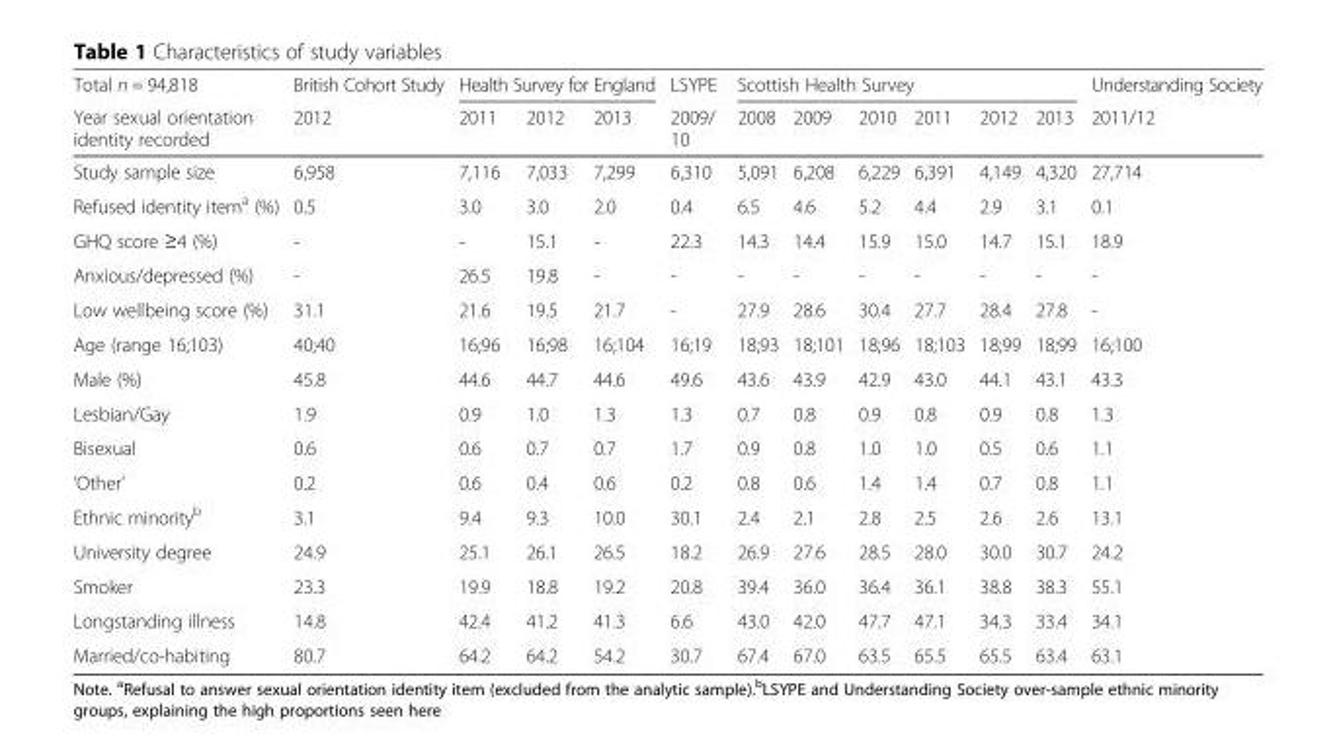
<table><thead><tr><td rowspan="2">Total n = 94,818 Year sexual orientation identity recorded</td><td rowspan="2">British Cohort Study 2012</td><td colspan="3">Health Survey for England</td><td rowspan="2">LSYPE 2009/ 10</td><td colspan="6">Scottish Health Survey</td><td rowspan="2">Understanding Society 2011/12</td></tr><tr><td>2011</td><td>2012</td><td>2013</td><td>2008</td><td>2009</td><td>2010</td><td>2011</td><td>2012</td><td>2013</td></tr></thead><tbody><tr><td>Study sample size</td><td>6,958</td><td>7,116</td><td>7,033</td><td>7,299</td><td>6,310</td><td>5,091</td><td>6,208</td><td>6,229</td><td>6,391</td><td>4,149</td><td>4,320</td><td>27,714</td></tr><tr><td>Refused identity item<sup>a</sup> (%)</td><td>0.5</td><td>3.0</td><td>3.0</td><td>2.0</td><td>0.4</td><td>6.5</td><td>4.6</td><td>5.2</td><td>4.4</td><td>2.9</td><td>3.1</td><td>0.1</td></tr><tr><td>GHQ score ≥4 (%)</td><td>-</td><td>-</td><td>15.1</td><td>-</td><td>22.3</td><td>14.3</td><td>14.4</td><td>15.9</td><td>15.0</td><td>14.7</td><td>15.1</td><td>18.9</td></tr><tr><td>Anxious/depressed (%)</td><td>-</td><td>26.5</td><td>19.8</td><td>-</td><td>-</td><td>-</td><td>-</td><td>-</td><td>-</td><td>-</td><td>-</td><td>-</td></tr><tr><td>Low wellbeing score (%)</td><td>31.1</td><td>21.6</td><td>19.5</td><td>21.7</td><td>-</td><td>27.9</td><td>28.6</td><td>30.4</td><td>27.7</td><td>28.4</td><td>27.8</td><td>-</td></tr><tr><td>Age (range 16;103)</td><td>40;40</td><td>16;96</td><td>16;98</td><td>16;104</td><td>16;19</td><td>18;93</td><td>18;101</td><td>18;96</td><td>18;103</td><td>18;99</td><td>18;99</td><td>16;100</td></tr><tr><td>Male (%)</td><td>45.8</td><td>44.6</td><td>44.7</td><td>44.6</td><td>49.6</td><td>43.6</td><td>43.9</td><td>42.9</td><td>43.0</td><td>44.1</td><td>43.1</td><td>43.3</td></tr><tr><td>Lesbian/Gay</td><td>1.9</td><td>0.9</td><td>1.0</td><td>1.3</td><td>1.3</td><td>0.7</td><td>0.8</td><td>0.9</td><td>0.8</td><td>0.9</td><td>0.8</td><td>1.3</td></tr><tr><td>Bisexual</td><td>0.6</td><td>0.6</td><td>0.7</td><td>0.7</td><td>1.7</td><td>0.9</td><td>0.8</td><td>1.0</td><td>1.0</td><td>0.5</td><td>0.6</td><td>1.1</td></tr><tr><td>‘Other’</td><td>0.2</td><td>0.6</td><td>0.4</td><td>0.6</td><td>0.2</td><td>0.8</td><td>0.6</td><td>1.4</td><td>1.4</td><td>0.7</td><td>0.8</td><td>1.1</td></tr><tr><td>Ethnic minority<sup>b</sup></td><td>3.1</td><td>9.4</td><td>9.3</td><td>10.0</td><td>30.1</td><td>2.4</td><td>2.1</td><td>2.8</td><td>2.5</td><td>2.6</td><td>2.6</td><td>13.1</td></tr><tr><td>University degree</td><td>24.9</td><td>25.1</td><td>26.1</td><td>26.5</td><td>18.2</td><td>26.9</td><td>27.6</td><td>28.5</td><td>28.0</td><td>30.0</td><td>30.7</td><td>24.2</td></tr><tr><td>Smoker</td><td>23.3</td><td>19.9</td><td>18.8</td><td>19.2</td><td>20.8</td><td>39.4</td><td>36.0</td><td>36.4</td><td>36.1</td><td>38.8</td><td>38.3</td><td>55.1</td></tr><tr><td>Longstanding illness</td><td>14.8</td><td>42.4</td><td>41.2</td><td>41.3</td><td>6.6</td><td>43.0</td><td>42.0</td><td>47.7</td><td>47.1</td><td>34.3</td><td>33.4</td><td>34.1</td></tr><tr><td>Married/co-habiting</td><td>80.7</td><td>64.2</td><td>64.2</td><td>54.2</td><td>30.7</td><td>67.4</td><td>67.0</td><td>63.5</td><td>65.5</td><td>65.5</td><td>63.4</td><td>63.1</td></tr></tbody></table>